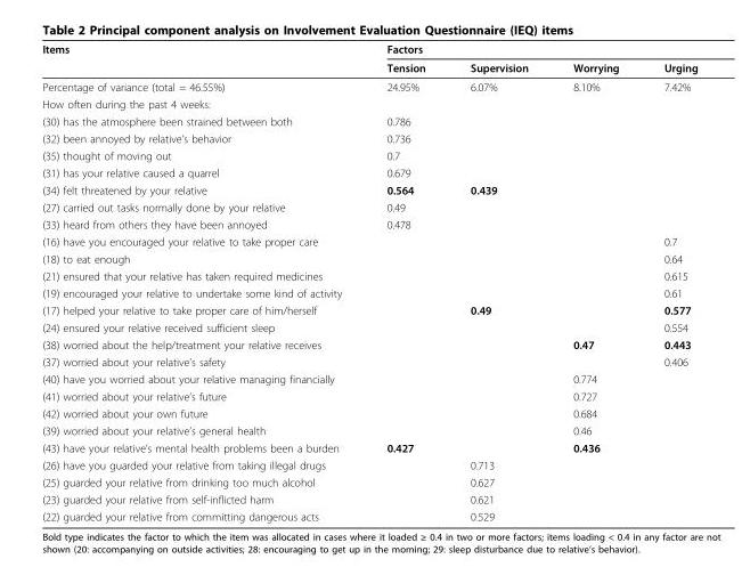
<table><thead><tr><td rowspan="2">Items</td><td colspan="4">Factors</td></tr><tr><td>Tension</td><td>Supervision</td><td>Worrying</td><td>Urging</td></tr></thead><tbody><tr><td>Percentage of variance (total = 46.55%)</td><td>24.95%</td><td>6.07%</td><td>8.10%</td><td>7.42%</td></tr><tr><td colspan="5">How often during the past 4 weeks:</td></tr><tr><td>(30) has the atmosphere been strained between both</td><td>0.786</td><td></td><td></td><td></td></tr><tr><td>(32) been annoyed by relative’s behavior</td><td>0.736</td><td></td><td></td><td></td></tr><tr><td>(35) thought of moving out</td><td>0.7</td><td></td><td></td><td></td></tr><tr><td>(31) has your relative caused a quarrel</td><td>0.679</td><td></td><td></td><td></td></tr><tr><td>(34) felt threatened by your relative</td><td>0.564</td><td>0.439</td><td></td><td></td></tr><tr><td>(27) carried out tasks normally done by your relative</td><td>0.49</td><td></td><td></td><td></td></tr><tr><td>(33) heard from others they have been annoyed</td><td>0.478</td><td></td><td></td><td></td></tr><tr><td>(16) have you encouraged your relative to take proper care</td><td></td><td></td><td></td><td>0.7</td></tr><tr><td>(18) to eat enough</td><td></td><td></td><td></td><td>0.64</td></tr><tr><td>(21) ensured that your relative has taken required medicines</td><td></td><td></td><td></td><td>0.615</td></tr><tr><td>(19) encouraged your relative to undertake some kind of activity</td><td></td><td></td><td></td><td>0.61</td></tr><tr><td>(17) helped your relative to take proper care of him/herself</td><td></td><td>0.49</td><td></td><td>0.577</td></tr><tr><td>(24) ensured your relative received sufficient sleep</td><td></td><td></td><td></td><td>0.554</td></tr><tr><td>(38) worried about the help/treatment your relative receives</td><td></td><td></td><td>0.47</td><td>0.443</td></tr><tr><td>(37) worried about your relative’s safety</td><td></td><td></td><td></td><td>0.406</td></tr><tr><td>(40) have you worried about your relative managing financially</td><td></td><td></td><td>0.774</td><td></td></tr><tr><td>(41) worried about your relative’s future</td><td></td><td></td><td>0.727</td><td></td></tr><tr><td>(42) worried about your own future</td><td></td><td></td><td>0.684</td><td></td></tr><tr><td>(39) worried about your relative’s general health</td><td></td><td></td><td>0.46</td><td></td></tr><tr><td>(43) have your relative’s mental health problems been a burden</td><td>0.427</td><td></td><td>0.436</td><td></td></tr><tr><td>(26) have you guarded your relative from taking illegal drugs</td><td></td><td>0.713</td><td></td><td></td></tr><tr><td>(25) guarded your relative from drinking too much alcohol</td><td></td><td>0.627</td><td></td><td></td></tr><tr><td>(23) guarded your relative from self-inflicted harm</td><td></td><td>0.621</td><td></td><td></td></tr><tr><td>(22) guarded your relative from committing dangerous acts</td><td></td><td>0.529</td><td></td><td></td></tr></tbody></table>